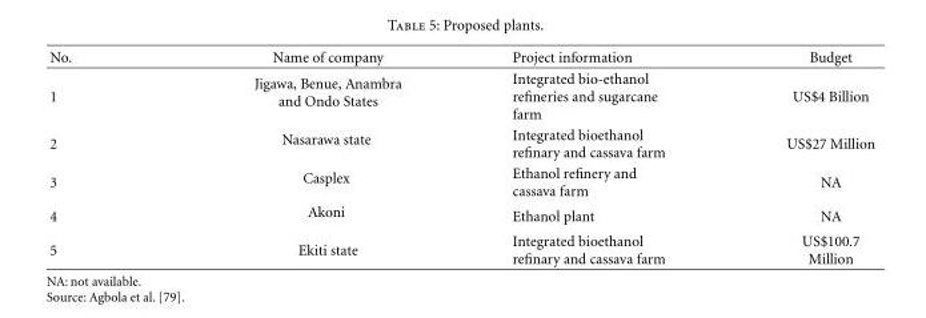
<table><thead><tr><td>No.</td><td>Name of company</td><td>Project information</td><td>Budget</td></tr></thead><tbody><tr><td>1</td><td>Jigawa, Benue, Anambra and Ondo States</td><td>Integrated bio-ethanol refineries and sugarcane farm</td><td>US$4 Billion</td></tr><tr><td>2</td><td>Nasarawa state</td><td>Integrated bioethanol refinary and cassava farm</td><td>US$27 Million</td></tr><tr><td>3</td><td>Casplex</td><td>Ethanol refinery and cassava farm</td><td>NA</td></tr><tr><td>4</td><td>Akoni</td><td>Ethanol plant</td><td>NA</td></tr><tr><td>5</td><td>Ekiti state</td><td>Integrated bioethanol refinary and cassava farm</td><td>US$100.7 Million</td></tr></tbody></table>